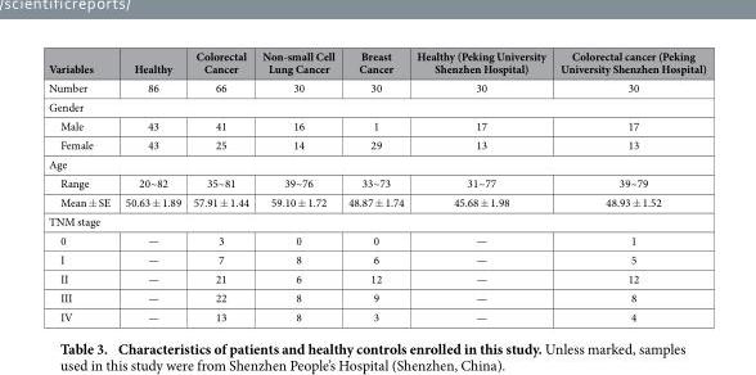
<table><thead><tr><td>Variables</td><td>Healthy</td><td>Colorectal Cancer</td><td>Non-small Cell Lung Cancer</td><td>Breast Cancer</td><td>Healthy (Peking University Shenzhen Hospital)</td><td>Colorectal cancer (Peking University Shenzhen Hospital)</td></tr></thead><tbody><tr><td>Number</td><td>86</td><td>66</td><td>30</td><td>30</td><td>30</td><td>30</td></tr><tr><td colspan="7">Gender</td></tr><tr><td>Male</td><td>43</td><td>41</td><td>16</td><td>1</td><td>17</td><td>17</td></tr><tr><td>Female</td><td>43</td><td>25</td><td>14</td><td>29</td><td>13</td><td>13</td></tr><tr><td colspan="7">Age</td></tr><tr><td>Range</td><td>20~82</td><td>35~81</td><td>39~76</td><td>33~73</td><td>31~77</td><td>39~79</td></tr><tr><td>Mean ± SE</td><td>50.63 ± 1.89</td><td>57.91 ± 1.44</td><td>59.10 ± 1.72</td><td>48.87 ± 1.74</td><td>45.68 ± 1.98</td><td>48.93 ± 1.52</td></tr><tr><td colspan="7">TNM stage</td></tr><tr><td>0</td><td>—</td><td>3</td><td>0</td><td>0</td><td>—</td><td>1</td></tr><tr><td>I</td><td>—</td><td>7</td><td>8</td><td>6</td><td>—</td><td>5</td></tr><tr><td>II</td><td>—</td><td>21</td><td>6</td><td>12</td><td>—</td><td>12</td></tr><tr><td>III</td><td>—</td><td>22</td><td>8</td><td>9</td><td>—</td><td>8</td></tr><tr><td>IV</td><td>—</td><td>13</td><td>8</td><td>3</td><td>—</td><td>4</td></tr></tbody></table>